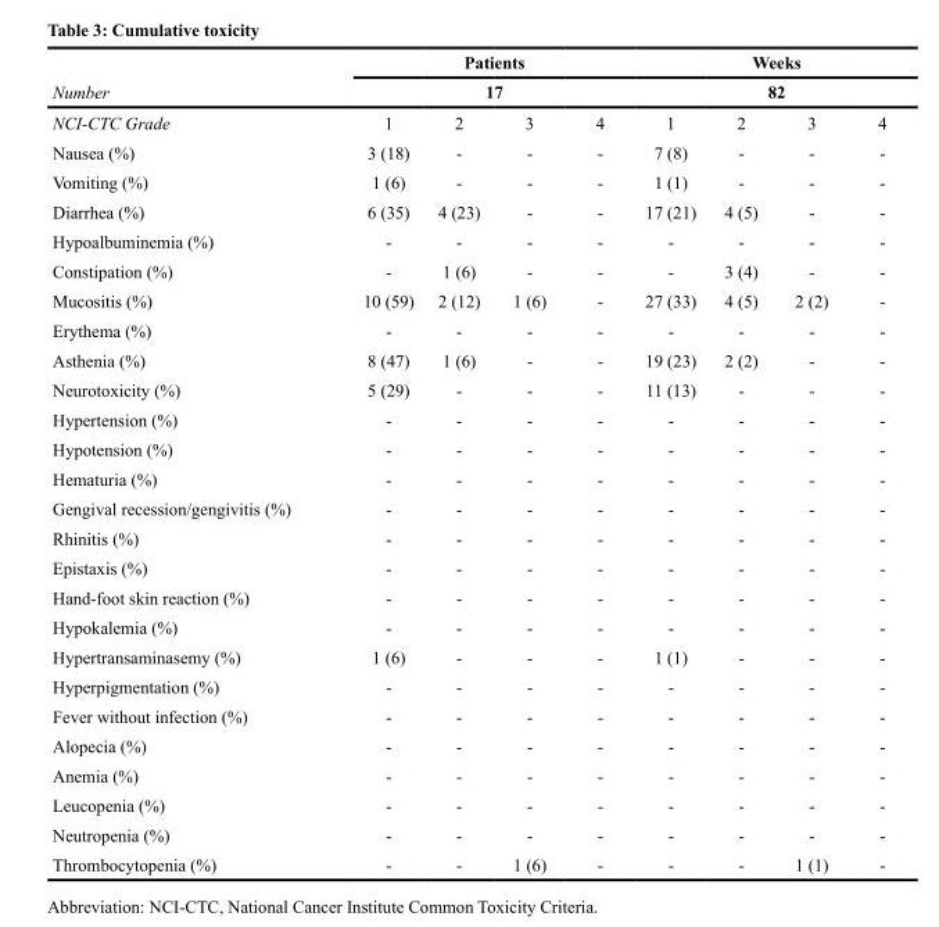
<table><thead><tr><td rowspan="3">Number NCI-CTC Grade</td><td rowspan="2" colspan="4">Patients 17</td><td rowspan="2" colspan="4">Weeks 82</td></tr><tr></tr><tr><td>1</td><td>2</td><td>3</td><td>4</td><td>1</td><td>2</td><td>3</td><td>4</td></tr></thead><tbody><tr><td>Nausea (%)</td><td>3 (18)</td><td>-</td><td>-</td><td>-</td><td>7 (8)</td><td>-</td><td>-</td><td>-</td></tr><tr><td>Vomiting (%)</td><td>1 (6)</td><td>-</td><td>-</td><td>-</td><td>1 (1)</td><td>-</td><td>-</td><td>-</td></tr><tr><td>Diarrhea (%)</td><td>6 (35)</td><td>4 (23)</td><td>-</td><td>-</td><td>17 (21)</td><td>4 (5)</td><td>-</td><td>-</td></tr><tr><td>Hypoalbuminemia (%)</td><td>-</td><td>-</td><td>-</td><td>-</td><td>-</td><td>-</td><td>-</td><td>-</td></tr><tr><td>Constipation (%)</td><td>-</td><td>1 (6)</td><td>-</td><td>-</td><td>-</td><td>3 (4)</td><td>-</td><td>-</td></tr><tr><td>Mucositis (%)</td><td>10 (59)</td><td>2 (12)</td><td>1 (6)</td><td>-</td><td>27 (33)</td><td>4 (5)</td><td>2 (2)</td><td>-</td></tr><tr><td>Erythema (%)</td><td>-</td><td>-</td><td>-</td><td>-</td><td>-</td><td>-</td><td>-</td><td>-</td></tr><tr><td>Asthenia (%)</td><td>8 (47)</td><td>1 (6)</td><td>-</td><td>-</td><td>19 (23)</td><td>2 (2)</td><td>-</td><td>-</td></tr><tr><td>Neurotoxicity (%)</td><td>5 (29)</td><td>-</td><td>-</td><td>-</td><td>11 (13)</td><td>-</td><td>-</td><td>-</td></tr><tr><td>Hypertension (%)</td><td>-</td><td>-</td><td>-</td><td>-</td><td>-</td><td>-</td><td>-</td><td>-</td></tr><tr><td>Hypotension (%)</td><td>-</td><td>-</td><td>-</td><td>-</td><td>-</td><td>-</td><td>-</td><td>-</td></tr><tr><td>Hematuria (%)</td><td>-</td><td>-</td><td>-</td><td>-</td><td>-</td><td>-</td><td>-</td><td>-</td></tr><tr><td>Gengival recession/gengivitis (%)</td><td>-</td><td>-</td><td>-</td><td>-</td><td>-</td><td>-</td><td>-</td><td>-</td></tr><tr><td>Rhinitis (%)</td><td>-</td><td>-</td><td>-</td><td>-</td><td>-</td><td>-</td><td>-</td><td>-</td></tr><tr><td>Epistaxis (%)</td><td>-</td><td>-</td><td>-</td><td>-</td><td>-</td><td>-</td><td>-</td><td>-</td></tr><tr><td>Hand-foot skin reaction (%)</td><td>-</td><td>-</td><td>-</td><td>-</td><td>-</td><td>-</td><td>-</td><td>-</td></tr><tr><td>Hypokalemia (%)</td><td>-</td><td>-</td><td>-</td><td>-</td><td>-</td><td>-</td><td>-</td><td>-</td></tr><tr><td>Hypertransaminasemy (%)</td><td>1 (6)</td><td>-</td><td>-</td><td>-</td><td>1 (1)</td><td>-</td><td>-</td><td>-</td></tr><tr><td>Hyperpigmentation (%)</td><td>-</td><td>-</td><td>-</td><td>-</td><td>-</td><td>-</td><td>-</td><td>-</td></tr><tr><td>Fever without infection (%)</td><td>-</td><td>-</td><td>-</td><td>-</td><td>-</td><td>-</td><td>-</td><td>-</td></tr><tr><td>Alopecia (%)</td><td>-</td><td>-</td><td>-</td><td>-</td><td>-</td><td>-</td><td>-</td><td>-</td></tr><tr><td>Anemia (%)</td><td>-</td><td>-</td><td>-</td><td>-</td><td>-</td><td>-</td><td>-</td><td>-</td></tr><tr><td>Leucopenia (%)</td><td>-</td><td>-</td><td>-</td><td>-</td><td>-</td><td>-</td><td>-</td><td>-</td></tr><tr><td>Neutropenia (%)</td><td>-</td><td>-</td><td>-</td><td>-</td><td>-</td><td>-</td><td>-</td><td>-</td></tr><tr><td>Thrombocytopenia (%)</td><td>-</td><td>-</td><td>1 (6)</td><td>-</td><td>-</td><td>-</td><td>1 (1)</td><td>-</td></tr></tbody></table>